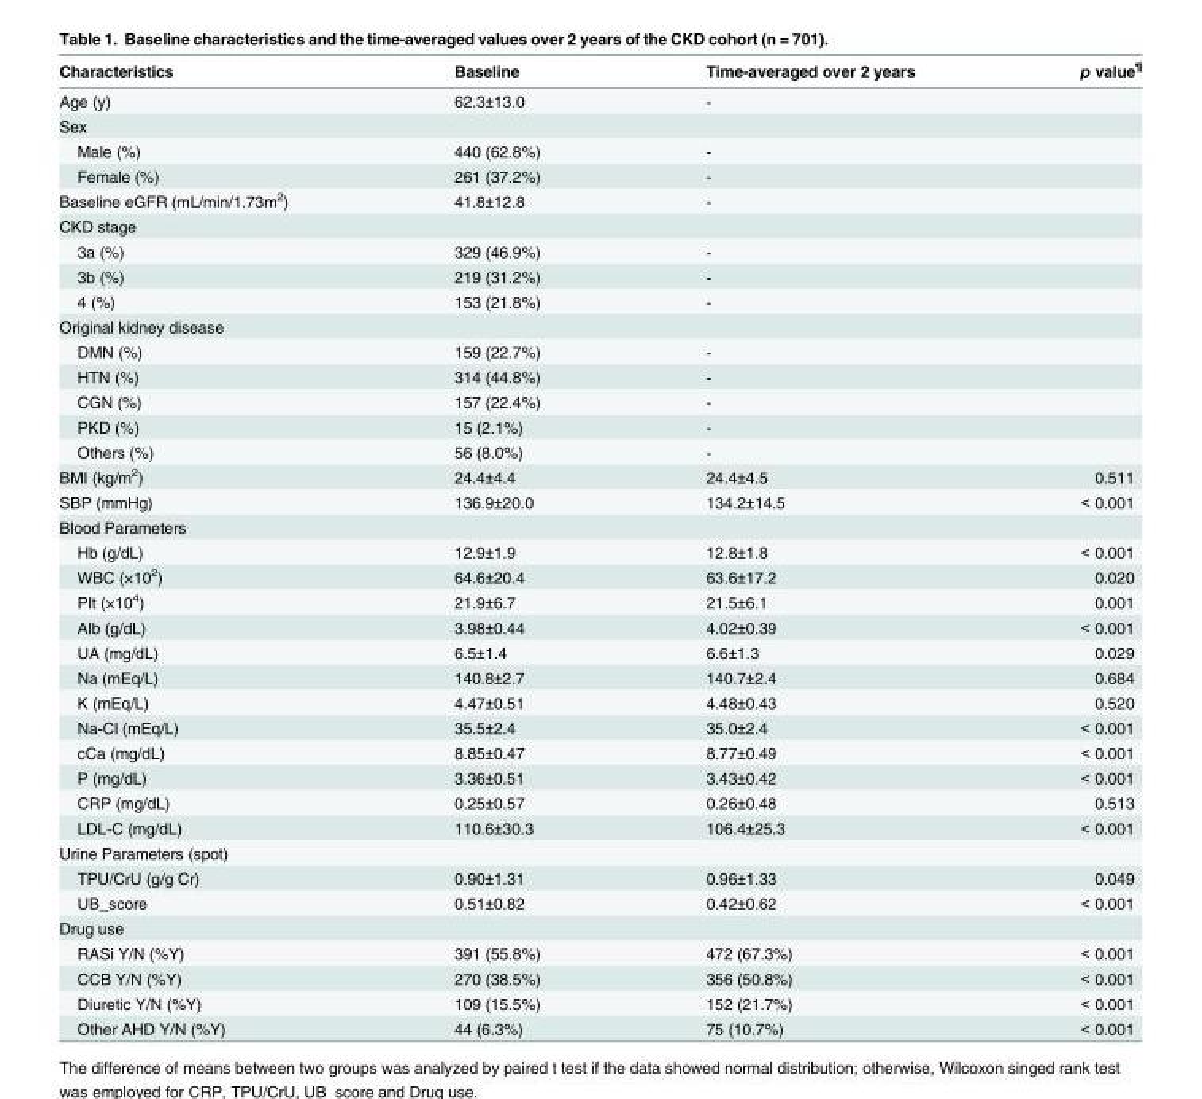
<table><thead><tr><td>Characteristics</td><td>Baseline</td><td>Time-averaged over 2 years</td><td>p value<sup>¶</sup></td></tr></thead><tbody><tr><td>Age (y)</td><td>62.3±13.0</td><td>-</td><td></td></tr><tr><td colspan="4">Sex</td></tr><tr><td>Male (%)</td><td>440 (62.8%)</td><td>-</td><td></td></tr><tr><td>Female (%)</td><td>261 (37.2%)</td><td>-</td><td></td></tr><tr><td>Baseline eGFR (mL/min/1.73m<sup>2</sup>)</td><td>41.8±12.8</td><td>-</td><td></td></tr><tr><td colspan="4">CKD stage</td></tr><tr><td>3a (%)</td><td>329 (46.9%)</td><td>-</td><td></td></tr><tr><td>3b (%)</td><td>219 (31.2%)</td><td>-</td><td></td></tr><tr><td>4 (%)</td><td>153 (21.8%)</td><td>-</td><td></td></tr><tr><td colspan="4">Original kidney disease</td></tr><tr><td>DMN (%)</td><td>159 (22.7%)</td><td>-</td><td></td></tr><tr><td>HTN (%)</td><td>314 (44.8%)</td><td>-</td><td></td></tr><tr><td>CGN (%)</td><td>157 (22.4%)</td><td>-</td><td></td></tr><tr><td>PKD (%)</td><td>15 (2.1%)</td><td>-</td><td></td></tr><tr><td>Others (%)</td><td>56 (8.0%)</td><td>-</td><td></td></tr><tr><td>BMI (kg/m<sup>2</sup>)</td><td>24.4±4.4</td><td>24.4±4.5</td><td>0.511</td></tr><tr><td>SBP (mmHg)</td><td>136.9±20.0</td><td>134.2±14.5</td><td>&lt; 0.001</td></tr><tr><td colspan="4">Blood Parameters</td></tr><tr><td>Hb (g/dL)</td><td>12.9±1.9</td><td>12.8±1.8</td><td>&lt; 0.001</td></tr><tr><td>WBC (×10<sup>2</sup>)</td><td>64.6±20.4</td><td>63.6±17.2</td><td>0.020</td></tr><tr><td>Plt (×10<sup>4</sup>)</td><td>21.9±6.7</td><td>21.5±6.1</td><td>0.001</td></tr><tr><td>Alb (g/dL)</td><td>3.98±0.44</td><td>4.02±0.39</td><td>&lt; 0.001</td></tr><tr><td>UA (mg/dL)</td><td>6.5±1.4</td><td>6.6±1.3</td><td>0.029</td></tr><tr><td>Na (mEq/L)</td><td>140.8±2.7</td><td>140.7±2.4</td><td>0.684</td></tr><tr><td>K (mEq/L)</td><td>4.47±0.51</td><td>4.48±0.43</td><td>0.520</td></tr><tr><td>Na-Cl (mEq/L)</td><td>35.5±2.4</td><td>35.0±2.4</td><td>&lt; 0.001</td></tr><tr><td>cCa (mg/dL)</td><td>8.85±0.47</td><td>8.77±0.49</td><td>&lt; 0.001</td></tr><tr><td>P (mg/dL)</td><td>3.36±0.51</td><td>3.43±0.42</td><td>&lt; 0.001</td></tr><tr><td>CRP (mg/dL)</td><td>0.25±0.57</td><td>0.26±0.48</td><td>0.513</td></tr><tr><td>LDL-C (mg/dL)</td><td>110.6±30.3</td><td>106.4±25.3</td><td>&lt; 0.001</td></tr><tr><td colspan="4">Urine Parameters (spot)</td></tr><tr><td>TPU/CrU (g/g Cr)</td><td>0.90±1.31</td><td>0.96±1.33</td><td>0.049</td></tr><tr><td>UB_score</td><td>0.51±0.82</td><td>0.42±0.62</td><td>&lt; 0.001</td></tr><tr><td colspan="4">Drug use</td></tr><tr><td>RASi Y/N (%Y)</td><td>391 (55.8%)</td><td>472 (67.3%)</td><td>&lt; 0.001</td></tr><tr><td>CCB Y/N (%Y)</td><td>270 (38.5%)</td><td>356 (50.8%)</td><td>&lt; 0.001</td></tr><tr><td>Diuretic Y/N (%Y)</td><td>109 (15.5%)</td><td>152 (21.7%)</td><td>&lt; 0.001</td></tr><tr><td>Other AHD Y/N (%Y)</td><td>44 (6.3%)</td><td>75 (10.7%)</td><td>&lt; 0.001</td></tr></tbody></table>